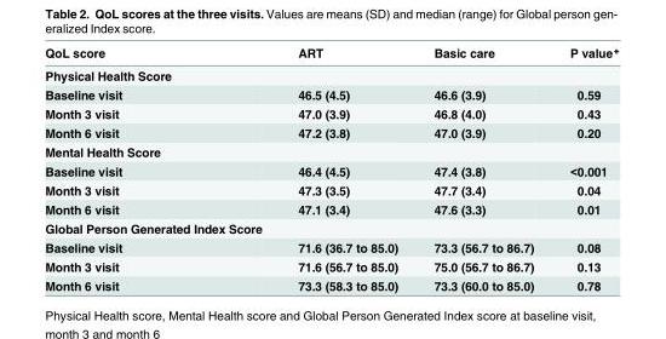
<table><thead><tr><td>QoL score</td><td>ART</td><td>Basic care</td><td>P value*</td></tr></thead><tbody><tr><td colspan="4">Physical Health Score</td></tr><tr><td>Baseline visit</td><td>46.5 (4.5)</td><td>46.6 (3.9)</td><td>0.59</td></tr><tr><td>Month 3 visit</td><td>47.0 (3.9)</td><td>46.8 (4.0)</td><td>0.43</td></tr><tr><td>Month 6 visit</td><td>47.2 (3.8)</td><td>47.0 (3.9)</td><td>0.20</td></tr><tr><td colspan="4">Mental Health Score</td></tr><tr><td>Baseline visit</td><td>46.4 (4.5)</td><td>47.4 (3.8)</td><td>&lt;0.001</td></tr><tr><td>Month 3 visit</td><td>47.3 (3.5)</td><td>47.7 (3.4)</td><td>0.04</td></tr><tr><td>Month 6 visit</td><td>47.1 (3.4)</td><td>47.6 (3.3)</td><td>0.01</td></tr><tr><td colspan="4">Global Person Generated Index Score</td></tr><tr><td>Baseline visit</td><td>71.6 (36.7 to 85.0)</td><td>73.3 (56.7 to 86.7)</td><td>0.08</td></tr><tr><td>Month 3 visit</td><td>71.6 (56.7 to 85.0)</td><td>75.0 (56.7 to 86.7)</td><td>0.13</td></tr><tr><td>Month 6 visit</td><td>73.3 (58.3 to 85.0)</td><td>73.3 (60.0 to 85.0)</td><td>0.78</td></tr></tbody></table>